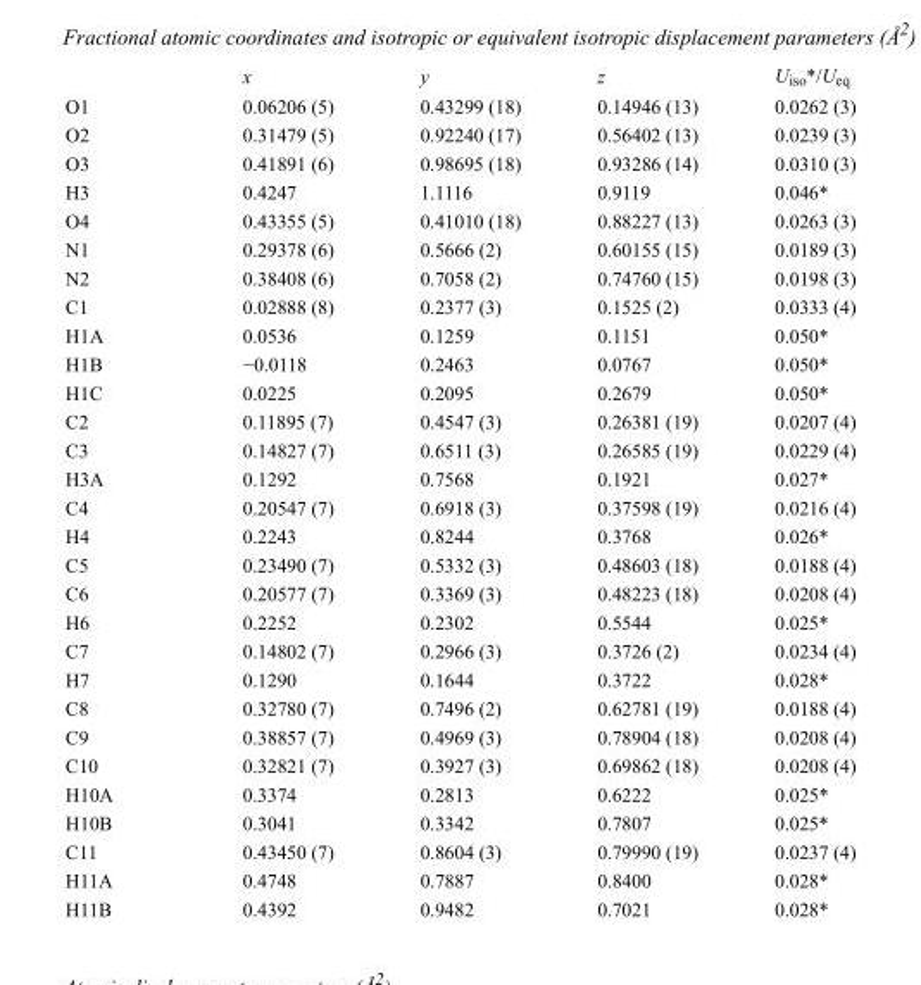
<table><thead><tr><td></td><td>x</td><td>y</td><td>z</td><td>U<sub>iso</sub>*/U<sub>eq</sub></td></tr></thead><tbody><tr><td>O1</td><td>0.06206 (5)</td><td>0.43299 (18)</td><td>0.14946 (13)</td><td>0.0262 (3)</td></tr><tr><td>O2</td><td>0.31479 (5)</td><td>0.92240 (17)</td><td>0.56402 (13)</td><td>0.0239 (3)</td></tr><tr><td>O3</td><td>0.41891 (6)</td><td>0.98695 (18)</td><td>0.93286 (14)</td><td>0.0310 (3)</td></tr><tr><td>H3</td><td>0.4247</td><td>1.1116</td><td>0.9119</td><td>0.046*</td></tr><tr><td>O4</td><td>0.43355 (5)</td><td>0.41010 (18)</td><td>0.88227 (13)</td><td>0.0263 (3)</td></tr><tr><td>N1</td><td>0.29378 (6)</td><td>0.5666 (2)</td><td>0.60155 (15)</td><td>0.0189 (3)</td></tr><tr><td>N2</td><td>0.38408 (6)</td><td>0.7058 (2)</td><td>0.74760 (15)</td><td>0.0198 (3)</td></tr><tr><td>C1</td><td>0.02888 (8)</td><td>0.2377 (3)</td><td>0.1525 (2)</td><td>0.0333 (4)</td></tr><tr><td>H1A</td><td>0.0536</td><td>0.1259</td><td>0.1151</td><td>0.050*</td></tr><tr><td>H1B</td><td>−0.0118</td><td>0.2463</td><td>0.0767</td><td>0.050*</td></tr><tr><td>H1C</td><td>0.0225</td><td>0.2095</td><td>0.2679</td><td>0.050*</td></tr><tr><td>C2</td><td>0.11895 (7)</td><td>0.4547 (3)</td><td>0.26381 (19)</td><td>0.0207 (4)</td></tr><tr><td>C3</td><td>0.14827 (7)</td><td>0.6511 (3)</td><td>0.26585 (19)</td><td>0.0229 (4)</td></tr><tr><td>H3A</td><td>0.1292</td><td>0.7568</td><td>0.1921</td><td>0.027*</td></tr><tr><td>C4</td><td>0.20547 (7)</td><td>0.6918 (3)</td><td>0.37598 (19)</td><td>0.0216 (4)</td></tr><tr><td>H4</td><td>0.2243</td><td>0.8244</td><td>0.3768</td><td>0.026*</td></tr><tr><td>C5</td><td>0.23490 (7)</td><td>0.5332 (3)</td><td>0.48603 (18)</td><td>0.0188 (4)</td></tr><tr><td>C6</td><td>0.20577 (7)</td><td>0.3369 (3)</td><td>0.48223 (18)</td><td>0.0208 (4)</td></tr><tr><td>H6</td><td>0.2252</td><td>0.2302</td><td>0.5544</td><td>0.025*</td></tr><tr><td>C7</td><td>0.14802 (7)</td><td>0.2966 (3)</td><td>0.3726 (2)</td><td>0.0234 (4)</td></tr><tr><td>H7</td><td>0.1290</td><td>0.1644</td><td>0.3722</td><td>0.028*</td></tr><tr><td>C8</td><td>0.32780 (7)</td><td>0.7496 (2)</td><td>0.62781 (19)</td><td>0.0188 (4)</td></tr><tr><td>C9</td><td>0.38857 (7)</td><td>0.4969 (3)</td><td>0.78904 (18)</td><td>0.0208 (4)</td></tr><tr><td>C10</td><td>0.32821 (7)</td><td>0.3927 (3)</td><td>0.69862 (18)</td><td>0.0208 (4)</td></tr><tr><td>H10A</td><td>0.3374</td><td>0.2813</td><td>0.6222</td><td>0.025*</td></tr><tr><td>H10B</td><td>0.3041</td><td>0.3342</td><td>0.7807</td><td>0.025*</td></tr><tr><td>C11</td><td>0.43450 (7)</td><td>0.8604 (3)</td><td>0.79990 (19)</td><td>0.0237 (4)</td></tr><tr><td>H11A</td><td>0.4748</td><td>0.7887</td><td>0.8400</td><td>0.028*</td></tr><tr><td>H11B</td><td>0.4392</td><td>0.9482</td><td>0.7021</td><td>0.028*</td></tr></tbody></table>